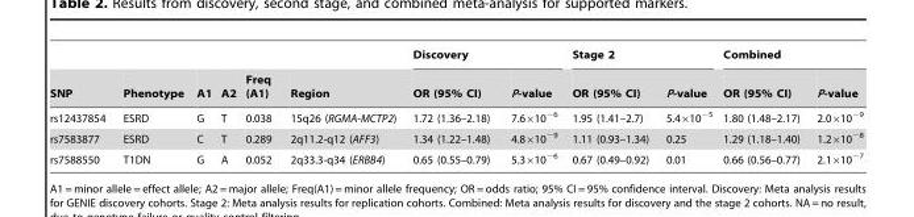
<table><thead><tr><td rowspan="2">SNP</td><td rowspan="2">Phenotype</td><td rowspan="2">A1</td><td rowspan="2">A2</td><td rowspan="2">Freq (A1)</td><td rowspan="2">Region</td><td colspan="2">Discovery</td><td colspan="2">Stage 2</td><td colspan="2">Combined</td></tr><tr><td>OR (95% CI)</td><td>P-value</td><td>OR (95% CI)</td><td>P-value</td><td>OR (95% CI)</td><td>P-value</td></tr></thead><tbody><tr><td>rs12437854</td><td>ESRD</td><td>G</td><td>T</td><td>0.038</td><td>15q26 (RGMA-MCTP2)</td><td>1.72 (1.36–2.18)</td><td>7.6×10<sup>−6</sup></td><td>1.95 (1.41–2.7)</td><td>5.4×10<sup>−5</sup></td><td>1.80 (1.48–2.17)</td><td>2.0×10<sup>−9</sup></td></tr><tr><td>rs7583877</td><td>ESRD</td><td>C</td><td>T</td><td>0.289</td><td>2q11.2-q12 (AFF3)</td><td>1.34 (1.22–1.48)</td><td>4.8×10<sup>−9</sup></td><td>1.11 (0.93–1.34)</td><td>0.25</td><td>1.29 (1.18–1.40)</td><td>1.2×10<sup>−8</sup></td></tr><tr><td>rs7588550</td><td>T1DN</td><td>G</td><td>A</td><td>0.052</td><td>2q33.3-q34 (ERBB4)</td><td>0.65 (0.55–0.79)</td><td>5.3×10<sup>−6</sup></td><td>0.67 (0.49–0.92)</td><td>0.01</td><td>0.66 (0.56–0.77)</td><td>2.1×10<sup>−7</sup></td></tr></tbody></table>